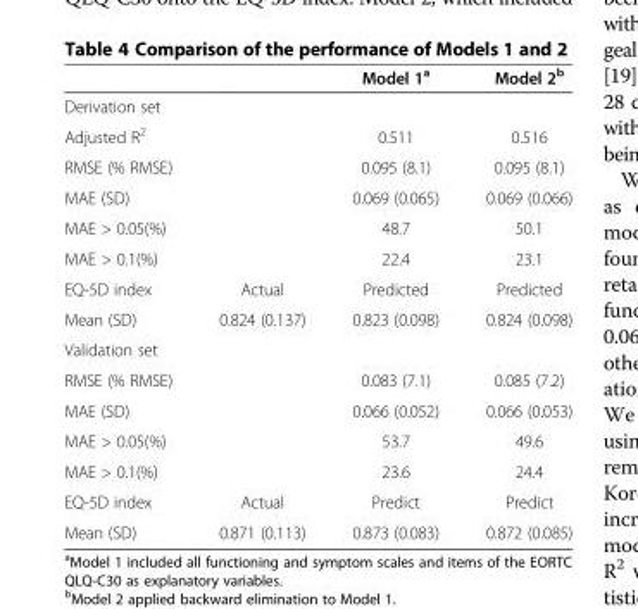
<table><thead><tr><td></td><td></td><td>Model 1<sup>a</sup></td><td>Model 2<sup>b</sup></td></tr></thead><tbody><tr><td colspan="4">Derivation set</td></tr><tr><td>Adjusted R<sup>2</sup></td><td></td><td>0.511</td><td>0.516</td></tr><tr><td>RMSE (% RMSE)</td><td></td><td>0.095 (8.1)</td><td>0.095 (8.1)</td></tr><tr><td>MAE (SD)</td><td></td><td>0.069 (0.065)</td><td>0.069 (0.066)</td></tr><tr><td>MAE &gt; 0.05(%)</td><td></td><td>48.7</td><td>50.1</td></tr><tr><td>MAE &gt; 0.1(%)</td><td></td><td>22.4</td><td>23.1</td></tr><tr><td>EQ-5D index</td><td>Actual</td><td>Predicted</td><td>Predicted</td></tr><tr><td>Mean (SD)</td><td>0.824 (0.137)</td><td>0.823 (0.098)</td><td>0.824 (0.098)</td></tr><tr><td colspan="4">Validation set</td></tr><tr><td>RMSE (% RMSE)</td><td></td><td>0.083 (7.1)</td><td>0.085 (7.2)</td></tr><tr><td>MAE (SD)</td><td></td><td>0.066 (0.052)</td><td>0.066 (0.053)</td></tr><tr><td>MAE &gt; 0.05(%)</td><td></td><td>53.7</td><td>49.6</td></tr><tr><td>MAE &gt; 0.1(%)</td><td></td><td>23.6</td><td>24.4</td></tr><tr><td>EQ-5D index</td><td>Actual</td><td>Predict</td><td>Predict</td></tr><tr><td>Mean (SD)</td><td>0.871 (0.113)</td><td>0.873 (0.083)</td><td>0.872 (0.085)</td></tr></tbody></table>